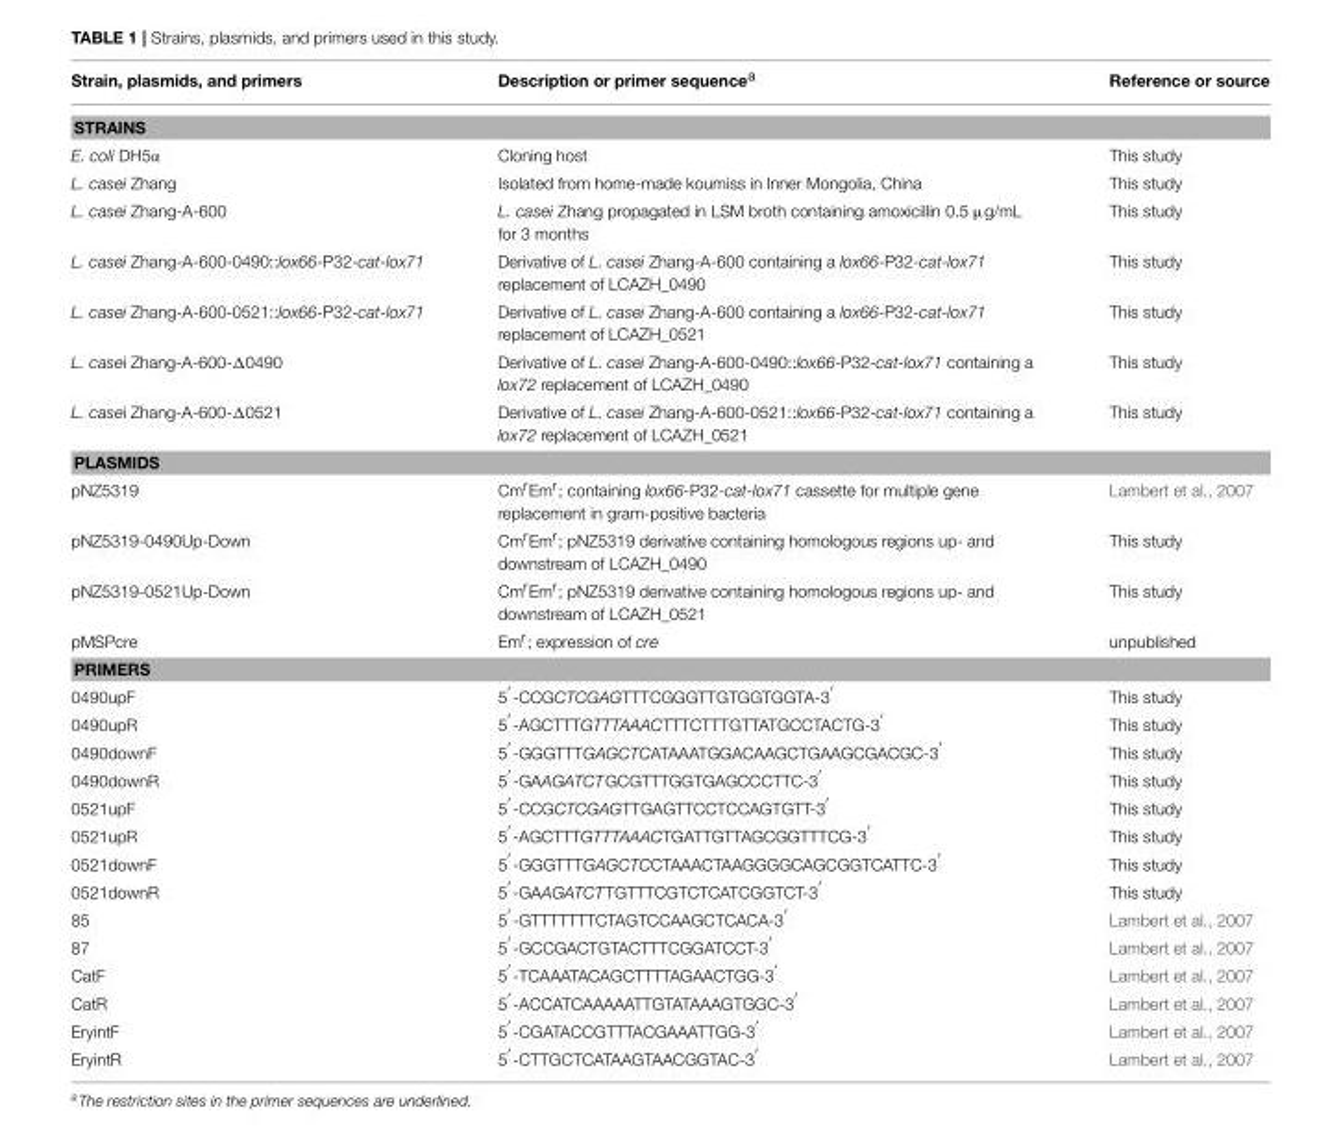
<table><thead><tr><td>Strain, plasmids, and primers</td><td>Description or primer sequence<sup>a</sup></td><td>Reference or source</td></tr></thead><tbody><tr><td colspan="3">STRAINS</td></tr><tr><td>E. coli DH5α</td><td>Cloning host</td><td>This study</td></tr><tr><td>L. casei Zhang</td><td>Isolated from home-made koumiss in Inner Mongolia, China</td><td>This study</td></tr><tr><td>L. casei Zhang-A-600</td><td>L. casei Zhang propagated in LSM broth containing amoxicillin 0.5 µg/mL for 3 months</td><td>This study</td></tr><tr><td>L. casei Zhang-A-600-0490::lox66-P32-cat-lox71</td><td>Derivative of L. casei Zhang-A-600 containing a lox66-P32-cat-lox71 replacement of LCAZH_0490</td><td>This study</td></tr><tr><td>L. casei Zhang-A-600-0521::lox66-P32-cat-lox71</td><td>Derivative of L. casei Zhang-A-600 containing a lox66-P32-cat-lox71 replacement of LCAZH_0521</td><td>This study</td></tr><tr><td>L. casei Zhang-A-600-Δ0490</td><td>Derivative of L. casei Zhang-A-600-0490::lox66-P32-cat-lox71 containing a lox72 replacement of LCAZH_0490</td><td>This study</td></tr><tr><td>L. casei Zhang-A-600-Δ0521</td><td>Derivative of L. casei Zhang-A-600-0521::lox66-P32-cat-lox71 containing a lox72 replacement of LCAZH_0521</td><td>This study</td></tr><tr><td colspan="3">PLASMIDS</td></tr><tr><td>pNZ5319</td><td>Cm<sup>r</sup>Em<sup>r</sup>; containing lox66-P32-cat-lox71 cassette for multiple gene replacement in gram-positive bacteria</td><td>Lambert et al., 2007</td></tr><tr><td>pNZ5319-0490Up-Down</td><td>Cm<sup>r</sup>Em<sup>r</sup>; pNZ5319 derivative containing homologous regions up- and downstream of LCAZH_0490</td><td>This study</td></tr><tr><td>pNZ5319-0521Up-Down</td><td>Cm<sup>r</sup>Em<sup>r</sup>; pNZ5319 derivative containing homologous regions up- and downstream of LCAZH_0521</td><td>This study</td></tr><tr><td>pMSPcre</td><td>Em<sup>r</sup>; expression of cre</td><td>unpublished</td></tr><tr><td colspan="3">PRIMERS</td></tr><tr><td>0490upF</td><td>5 ′-CCGCTCGAGTTTCGGGTTGTGGTGGTA-3 ′</td><td>This study</td></tr><tr><td>0490upR</td><td>5 ′-AGCTTTGTTTAAACTTTCTTTGTTATGCCTACTG-3 ′</td><td>This study</td></tr><tr><td>0490downF</td><td>5 ′-GGGTTTGAGCTCATAAATGGACAAGCTGAAGCGACGC-3 ′</td><td>This study</td></tr><tr><td>0490downR</td><td>5 ′-GAAGATCTGCGTTTGGTGAGCCCTTC-3 ′</td><td>This study</td></tr><tr><td>0521upF</td><td>5 ′-CCGCTCGAGTTGAGTTCCTCCAGTGTT-3 ′</td><td>This study</td></tr><tr><td>0521upR</td><td>5 ′-AGCTTTGTTTAAACTGATTGTTAGCGGTTTCG-3 ′</td><td>This study</td></tr><tr><td>0521downF</td><td>5 ′-GGGTTTGAGCTCCTAAACTAAGGGGCAGCGGTCATTC-3 ′</td><td>This study</td></tr><tr><td>0521downR</td><td>5 ′-GAAGATCTTGTTTCGTCTCATCGGTCT-3 ′</td><td>This study</td></tr><tr><td>85</td><td>5 ′-GTTTTTTTCTAGTCCAAGCTCACA-3 ′</td><td>Lambert et al., 2007</td></tr><tr><td>87</td><td>5 ′-GCCGACTGTACTTTCGGATCCT-3 ′</td><td>Lambert et al., 2007</td></tr><tr><td>CatF</td><td>5 ′-TCAAATACAGCTTTTAGAACTGG-3 ′</td><td>Lambert et al., 2007</td></tr><tr><td>CatR</td><td>5 ′-ACCATCAAAAATTGTATAAAGTGGC-3 ′</td><td>Lambert et al., 2007</td></tr><tr><td>EryintF</td><td>5 ′-CGATACCGTTTACGAAATTGG-3 ′</td><td>Lambert et al., 2007</td></tr><tr><td>EryintR</td><td>5 ′-CTTGCTCATAAGTAACGGTAC-3 ′</td><td>Lambert et al., 2007</td></tr></tbody></table>